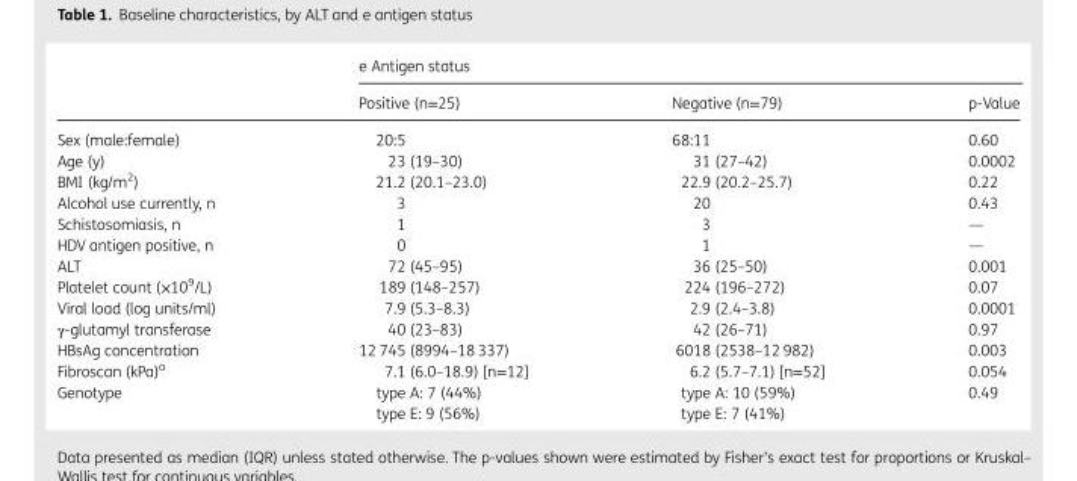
<table><thead><tr><td rowspan="2"></td><td colspan="3">e Antigen status</td></tr><tr><td>Positive (n=25)</td><td>Negative (n=79)</td><td>p-Value</td></tr></thead><tbody><tr><td>Sex (male:female)</td><td>20:5</td><td>68:11</td><td>0.60</td></tr><tr><td>Age (y)</td><td>23 (19–30)</td><td>31 (27–42)</td><td>0.0002</td></tr><tr><td>BMI (kg/m<sup>2</sup>)</td><td>21.2 (20.1–23.0)</td><td>22.9 (20.2–25.7)</td><td>0.22</td></tr><tr><td>Alcohol use currently, n</td><td>3</td><td>20</td><td>0.43</td></tr><tr><td>Schistosomiasis, n</td><td>1</td><td>3</td><td>—</td></tr><tr><td>HDV antigen positive, n</td><td>0</td><td>1</td><td>—</td></tr><tr><td>ALT</td><td>72 (45–95)</td><td>36 (25–50)</td><td>0.001</td></tr><tr><td>Platelet count (×10<sup>9</sup>/L)</td><td>189 (148–257)</td><td>224 (196–272)</td><td>0.07</td></tr><tr><td>Viral load (log units/ml)</td><td>7.9 (5.3–8.3)</td><td>2.9 (2.4–3.8)</td><td>0.0001</td></tr><tr><td>γ-glutamyl transferase</td><td>40 (23–83)</td><td>42 (26–71)</td><td>0.97</td></tr><tr><td>HBsAg concentration</td><td>12 745 (8994–18 337)</td><td>6018 (2538–12 982)</td><td>0.003</td></tr><tr><td>Fibroscan (kPa)<sup>a</sup></td><td>7.1 (6.0–18.9) [n=12]</td><td>6.2 (5.7–7.1) [n=52]</td><td>0.054</td></tr><tr><td rowspan="2">Genotype</td><td>type A: 7 (44%)</td><td>type A: 10 (59%)</td><td rowspan="2">0.49</td></tr><tr><td>type E: 9 (56%)</td><td>type E: 7 (41%)</td></tr></tbody></table>